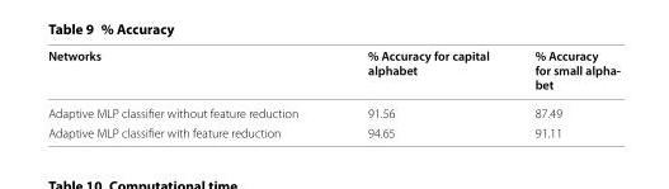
<table><thead><tr><td>Networks</td><td>% Accuracy for capital alphabet</td><td>% Accuracy for small alpha- bet</td></tr></thead><tbody><tr><td>Adaptive MLP classifier without feature reduction</td><td>91.56</td><td>87.49</td></tr><tr><td>Adaptive MLP classifier with feature reduction</td><td>94.65</td><td>91.11</td></tr></tbody></table>